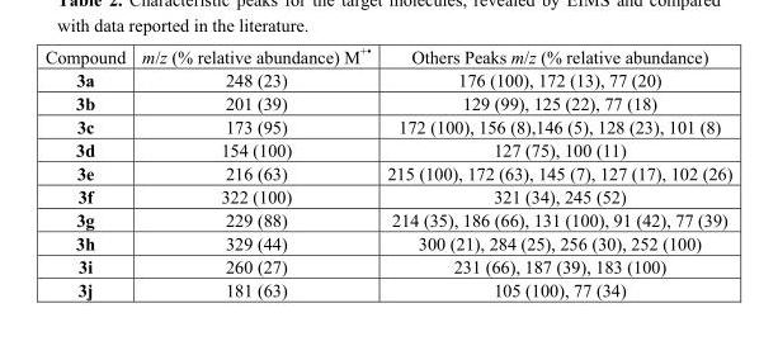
<table><thead><tr><td>Compound</td><td>m/z (% relative abundance) M<sup>+•</sup></td><td>Others Peaks m/z (% relative abundance)</td></tr></thead><tbody><tr><td>3a</td><td>248 (23)</td><td>176 (100), 172 (13), 77 (20)</td></tr><tr><td>3b</td><td>201 (39)</td><td>129 (99), 125 (22), 77 (18)</td></tr><tr><td>3c</td><td>173 (95)</td><td>172 (100), 156 (8),146 (5), 128 (23), 101 (8)</td></tr><tr><td>3d</td><td>154 (100)</td><td>127 (75), 100 (11)</td></tr><tr><td>3e</td><td>216 (63)</td><td>215 (100), 172 (63), 145 (7), 127 (17), 102 (26)</td></tr><tr><td>3f</td><td>322 (100)</td><td>321 (34), 245 (52)</td></tr><tr><td>3g</td><td>229 (88)</td><td>214 (35), 186 (66), 131 (100), 91 (42), 77 (39)</td></tr><tr><td>3h</td><td>329 (44)</td><td>300 (21), 284 (25), 256 (30), 252 (100)</td></tr><tr><td>3i</td><td>260 (27)</td><td>231 (66), 187 (39), 183 (100)</td></tr><tr><td>3j</td><td>181 (63)</td><td>105 (100), 77 (34)</td></tr></tbody></table>